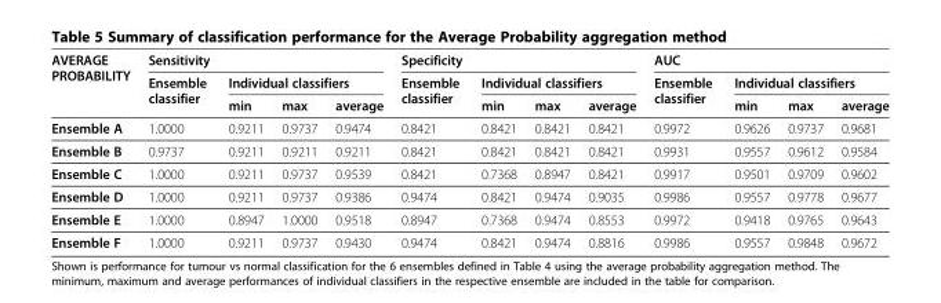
<table><thead><tr><td rowspan="3">AVERAGE PROBABILITY</td><td colspan="4">Sensitivity</td><td colspan="4">Specificity</td><td colspan="4">AUC</td></tr><tr><td rowspan="2">Ensemble classifier</td><td colspan="3">Individual classifiers</td><td rowspan="2">Ensemble classifier</td><td colspan="3">Individual classifiers</td><td rowspan="2">Ensemble classifier</td><td colspan="3">Individual classifiers</td></tr><tr><td>min</td><td>max</td><td>average</td><td>min</td><td>max</td><td>average</td><td>min</td><td>max</td><td>average</td></tr></thead><tbody><tr><td>Ensemble A</td><td>1.0000</td><td>0.9211</td><td>0.9737</td><td>0.9474</td><td>0.8421</td><td>0.8421</td><td>0.8421</td><td>0.8421</td><td>0.9972</td><td>0.9626</td><td>0.9737</td><td>0.9681</td></tr><tr><td>Ensemble B</td><td>0.9737</td><td>0.9211</td><td>0.9211</td><td>0.9211</td><td>0.8421</td><td>0.8421</td><td>0.8421</td><td>0.8421</td><td>0.9931</td><td>0.9557</td><td>0.9612</td><td>0.9584</td></tr><tr><td>Ensemble C</td><td>1.0000</td><td>0.9211</td><td>0.9737</td><td>0.9539</td><td>0.8421</td><td>0.7368</td><td>0.8947</td><td>0.8421</td><td>0.9917</td><td>0.9501</td><td>0.9709</td><td>0.9602</td></tr><tr><td>Ensemble D</td><td>1.0000</td><td>0.9211</td><td>0.9737</td><td>0.9386</td><td>0.9474</td><td>0.8421</td><td>0.9474</td><td>0.9035</td><td>0.9986</td><td>0.9557</td><td>0.9778</td><td>0.9677</td></tr><tr><td>Ensemble E</td><td>1.0000</td><td>0.8947</td><td>1.0000</td><td>0.9518</td><td>0.8947</td><td>0.7368</td><td>0.9474</td><td>0.8553</td><td>0.9972</td><td>0.9418</td><td>0.9765</td><td>0.9643</td></tr><tr><td>Ensemble F</td><td>1.0000</td><td>0.9211</td><td>0.9737</td><td>0.9430</td><td>0.9474</td><td>0.8421</td><td>0.9474</td><td>0.8816</td><td>0.9986</td><td>0.9557</td><td>0.9848</td><td>0.9672</td></tr></tbody></table>